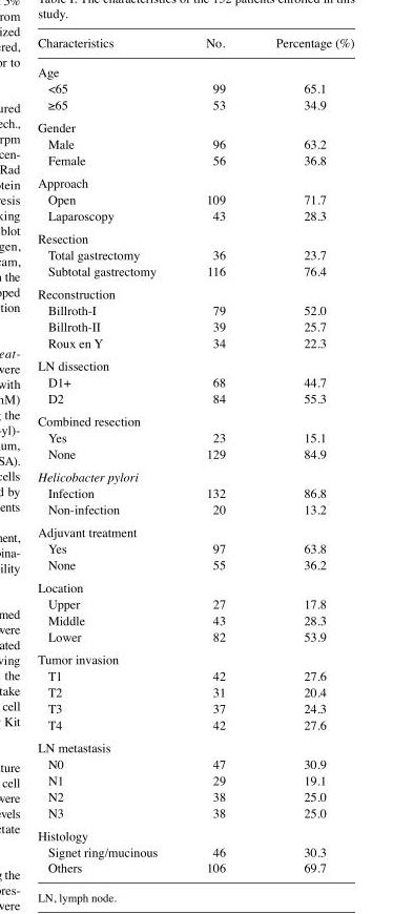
<table><thead><tr><td>Characteristics</td><td>No.</td><td>Percentage (%)</td></tr></thead><tbody><tr><td colspan="3">Age</td></tr><tr><td>&lt;65</td><td>99</td><td>65.1</td></tr><tr><td>≥65</td><td>53</td><td>34.9</td></tr><tr><td colspan="3">Gender</td></tr><tr><td>Male</td><td>96</td><td>63.2</td></tr><tr><td>Female</td><td>56</td><td>36.8</td></tr><tr><td colspan="3">Approach</td></tr><tr><td>Open</td><td>109</td><td>71.7</td></tr><tr><td>Laparoscopy</td><td>43</td><td>28.3</td></tr><tr><td colspan="3">Resection</td></tr><tr><td>Total gastrectomy</td><td>36</td><td>23.7</td></tr><tr><td>Subtotal gastrectomy</td><td>116</td><td>76.4</td></tr><tr><td colspan="3">Reconstruction</td></tr><tr><td>Billroth-I</td><td>79</td><td>52.0</td></tr><tr><td>Billroth-II</td><td>39</td><td>25.7</td></tr><tr><td>Roux en Y</td><td>34</td><td>22.3</td></tr><tr><td colspan="3">LN dissection</td></tr><tr><td>D1+</td><td>68</td><td>44.7</td></tr><tr><td>D2</td><td>84</td><td>55.3</td></tr><tr><td colspan="3">Combined resection</td></tr><tr><td>Yes</td><td>23</td><td>15.1</td></tr><tr><td>None</td><td>129</td><td>84.9</td></tr><tr><td colspan="3">Helicobacter pylori</td></tr><tr><td>Infection</td><td>132</td><td>86.8</td></tr><tr><td>Non-infection</td><td>20</td><td>13.2</td></tr><tr><td colspan="3">Adjuvant treatment</td></tr><tr><td>Yes</td><td>97</td><td>63.8</td></tr><tr><td>None</td><td>55</td><td>36.2</td></tr><tr><td colspan="3">Location</td></tr><tr><td>Upper</td><td>27</td><td>17.8</td></tr><tr><td>Middle</td><td>43</td><td>28.3</td></tr><tr><td>Lower</td><td>82</td><td>53.9</td></tr><tr><td colspan="3">Tumor invasion</td></tr><tr><td>T1</td><td>42</td><td>27.6</td></tr><tr><td>T2</td><td>31</td><td>20.4</td></tr><tr><td>T3</td><td>37</td><td>24.3</td></tr><tr><td>T4</td><td>42</td><td>27.6</td></tr><tr><td colspan="3">LN metastasis</td></tr><tr><td>N0</td><td>47</td><td>30.9</td></tr><tr><td>N1</td><td>29</td><td>19.1</td></tr><tr><td>N2</td><td>38</td><td>25.0</td></tr><tr><td>N3</td><td>38</td><td>25.0</td></tr><tr><td colspan="3">Histology</td></tr><tr><td>Signet ring/mucinous</td><td>46</td><td>30.3</td></tr><tr><td>Others</td><td>106</td><td>69.7</td></tr></tbody></table>